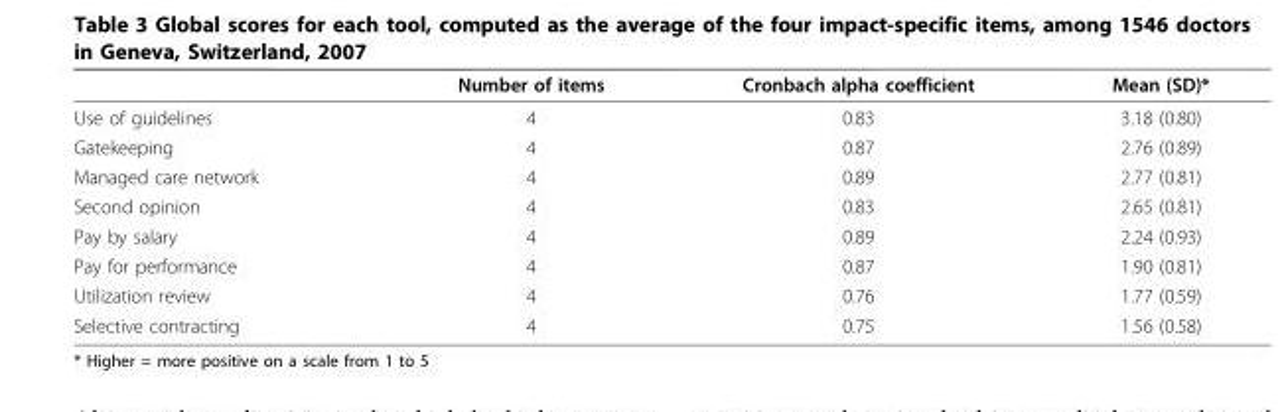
<table><thead><tr><td></td><td>Number of items</td><td>Cronbach alpha coefficient</td><td>Mean (SD)*</td></tr></thead><tbody><tr><td>Use of guidelines</td><td>4</td><td>0.83</td><td>3.18 (0.80)</td></tr><tr><td>Gatekeeping</td><td>4</td><td>0.87</td><td>2.76 (0.89)</td></tr><tr><td>Managed care network</td><td>4</td><td>0.89</td><td>2.77 (0.81)</td></tr><tr><td>Second opinion</td><td>4</td><td>0.83</td><td>2.65 (0.81)</td></tr><tr><td>Pay by salary</td><td>4</td><td>0.89</td><td>2.24 (0.93)</td></tr><tr><td>Pay for performance</td><td>4</td><td>0.87</td><td>1.90 (0.81)</td></tr><tr><td>Utilization review</td><td>4</td><td>0.76</td><td>1.77 (0.59)</td></tr><tr><td>Selective contracting</td><td>4</td><td>0.75</td><td>1.56 (0.58)</td></tr></tbody></table>